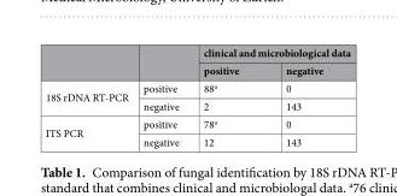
<table><thead><tr><td rowspan="2"></td><td rowspan="2"></td><td colspan="2">clinical and microbiological data</td></tr><tr><td>positive</td><td>negative</td></tr></thead><tbody><tr><td rowspan="2">18S rDNA RT-PCR</td><td>positive</td><td>88<sup>a</sup></td><td>0</td></tr><tr><td>negative</td><td>2</td><td>143</td></tr><tr><td rowspan="2">ITS PCR</td><td>positive</td><td>78<sup>a</sup></td><td>0</td></tr><tr><td>negative</td><td>12</td><td>143</td></tr></tbody></table>